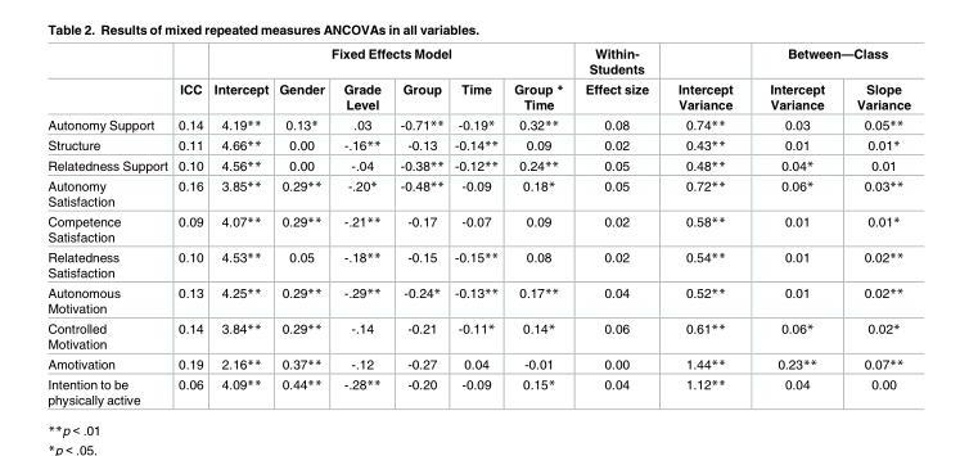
<table><thead><tr><td rowspan="2"></td><td rowspan="2">ICC</td><td colspan="6">Fixed Effects Model</td><td rowspan="2">Within- Students Effect size</td><td rowspan="2">Intercept Variance</td><td colspan="2">Between—Class</td></tr><tr><td>Intercept</td><td>Gender</td><td>Grade Level</td><td>Group</td><td>Time</td><td>Group * Time</td><td>Intercept Variance</td><td>Slope Variance</td></tr></thead><tbody><tr><td>Autonomy Support</td><td>0.14</td><td>4.19**</td><td>0.13*</td><td>.03</td><td>-0.71**</td><td>-0.19*</td><td>0.32**</td><td>0.08</td><td>0.74**</td><td>0.03</td><td>0.05**</td></tr><tr><td>Structure</td><td>0.11</td><td>4.66**</td><td>0.00</td><td>-.16**</td><td>-0.13</td><td>-0.14**</td><td>0.09</td><td>0.02</td><td>0.43**</td><td>0.01</td><td>0.01*</td></tr><tr><td>Relatedness Support</td><td>0.10</td><td>4.56**</td><td>0.00</td><td>-.04</td><td>-0.38**</td><td>-0.12**</td><td>0.24**</td><td>0.05</td><td>0.48**</td><td>0.04*</td><td>0.01</td></tr><tr><td>Autonomy Satisfaction</td><td>0.16</td><td>3.85**</td><td>0.29**</td><td>-.20*</td><td>-0.48**</td><td>-0.09</td><td>0.18*</td><td>0.05</td><td>0.72**</td><td>0.06*</td><td>0.03**</td></tr><tr><td>Competence Satisfaction</td><td>0.09</td><td>4.07**</td><td>0.29**</td><td>-.21**</td><td>-0.17</td><td>-0.07</td><td>0.09</td><td>0.02</td><td>0.58**</td><td>0.01</td><td>0.01*</td></tr><tr><td>Relatedness Satisfaction</td><td>0.10</td><td>4.53**</td><td>0.05</td><td>-.18**</td><td>-0.15</td><td>-0.15**</td><td>0.08</td><td>0.02</td><td>0.54**</td><td>0.01</td><td>0.02**</td></tr><tr><td>Autonomous Motivation</td><td>0.13</td><td>4.25**</td><td>0.29**</td><td>-.29**</td><td>-0.24*</td><td>-0.13**</td><td>0.17**</td><td>0.04</td><td>0.52**</td><td>0.01</td><td>0.02**</td></tr><tr><td>Controlled Motivation</td><td>0.14</td><td>3.84**</td><td>0.29**</td><td>-.14</td><td>-0.21</td><td>-0.11*</td><td>0.14*</td><td>0.06</td><td>0.61**</td><td>0.06*</td><td>0.02*</td></tr><tr><td>Amotivation</td><td>0.19</td><td>2.16**</td><td>0.37**</td><td>-.12</td><td>-0.27</td><td>0.04</td><td>-0.01</td><td>0.00</td><td>1.44**</td><td>0.23**</td><td>0.07**</td></tr><tr><td>Intention to be physically active</td><td>0.06</td><td>4.09**</td><td>0.44**</td><td>-.28**</td><td>-0.20</td><td>-0.09</td><td>0.15*</td><td>0.04</td><td>1.12**</td><td>0.04</td><td>0.00</td></tr></tbody></table>